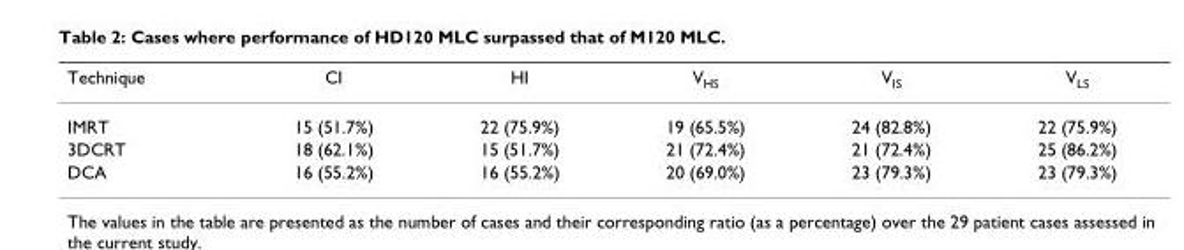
<table><thead><tr><td>Technique</td><td>CI</td><td>HI</td><td>V<sub>HS</sub></td><td>V<sub>IS</sub></td><td>V<sub>LS</sub></td></tr></thead><tbody><tr><td>IMRT</td><td>15 (51.7%)</td><td>22 (75.9%)</td><td>19 (65.5%)</td><td>24 (82.8%)</td><td>22 (75.9%)</td></tr><tr><td>3DCRT</td><td>18 (62.1%)</td><td>15 (51.7%)</td><td>21 (72.4%)</td><td>21 (72.4%)</td><td>25 (86.2%)</td></tr><tr><td>DCA</td><td>16 (55.2%)</td><td>16 (55.2%)</td><td>20 (69.0%)</td><td>23 (79.3%)</td><td>23 (79.3%)</td></tr></tbody></table>